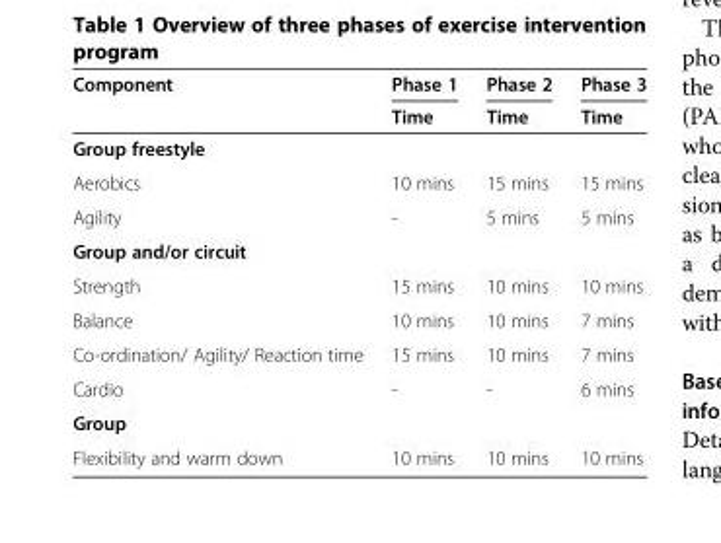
<table><thead><tr><td rowspan="2">Component</td><td rowspan="2">Phase 1 Time</td><td rowspan="2">Phase 2 Time</td><td rowspan="2">Phase 3 Time</td></tr><tr></tr></thead><tbody><tr><td colspan="4">Group freestyle</td></tr><tr><td>Aerobics</td><td>10 mins</td><td>15 mins</td><td>15 mins</td></tr><tr><td>Agility</td><td>-</td><td>5 mins</td><td>5 mins</td></tr><tr><td colspan="4">Group and/or circuit</td></tr><tr><td>Strength</td><td>15 mins</td><td>10 mins</td><td>10 mins</td></tr><tr><td>Balance</td><td>10 mins</td><td>10 mins</td><td>7 mins</td></tr><tr><td>Co-ordination/ Agility/ Reaction time</td><td>15 mins</td><td>10 mins</td><td>7 mins</td></tr><tr><td>Cardio</td><td>-</td><td>-</td><td>6 mins</td></tr><tr><td colspan="4">Group</td></tr><tr><td>Flexibility and warm down</td><td>10 mins</td><td>10 mins</td><td>10 mins</td></tr></tbody></table>